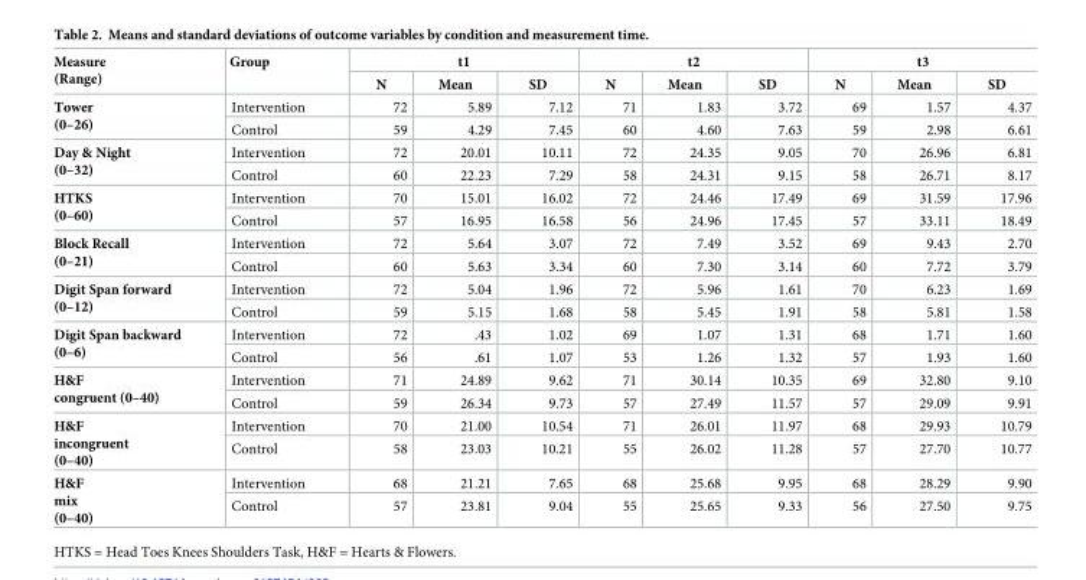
<table><thead><tr><td rowspan="2">Measure (Range)</td><td rowspan="2">Group</td><td colspan="3">t1</td><td colspan="3">t2</td><td colspan="3">t3</td></tr><tr><td>N</td><td>Mean</td><td>SD</td><td>N</td><td>Mean</td><td>SD</td><td>N</td><td>Mean</td><td>SD</td></tr></thead><tbody><tr><td rowspan="2">Tower (0–26)</td><td>Intervention</td><td>72</td><td>5.89</td><td>7.12</td><td>71</td><td>1.83</td><td>3.72</td><td>69</td><td>1.57</td><td>4.37</td></tr><tr><td>Control</td><td>59</td><td>4.29</td><td>7.45</td><td>60</td><td>4.60</td><td>7.63</td><td>59</td><td>2.98</td><td>6.61</td></tr><tr><td rowspan="2">Day &amp; Night (0–32)</td><td>Intervention</td><td>72</td><td>20.01</td><td>10.11</td><td>72</td><td>24.35</td><td>9.05</td><td>70</td><td>26.96</td><td>6.81</td></tr><tr><td>Control</td><td>60</td><td>22.23</td><td>7.29</td><td>58</td><td>24.31</td><td>9.15</td><td>58</td><td>26.71</td><td>8.17</td></tr><tr><td rowspan="2">HTKS (0–60)</td><td>Intervention</td><td>70</td><td>15.01</td><td>16.02</td><td>72</td><td>24.46</td><td>17.49</td><td>69</td><td>31.59</td><td>17.96</td></tr><tr><td>Control</td><td>57</td><td>16.95</td><td>16.58</td><td>56</td><td>24.96</td><td>17.45</td><td>57</td><td>33.11</td><td>18.49</td></tr><tr><td rowspan="2">Block Recall (0–21)</td><td>Intervention</td><td>72</td><td>5.64</td><td>3.07</td><td>72</td><td>7.49</td><td>3.52</td><td>69</td><td>9.43</td><td>2.70</td></tr><tr><td>Control</td><td>60</td><td>5.63</td><td>3.34</td><td>60</td><td>7.30</td><td>3.14</td><td>60</td><td>7.72</td><td>3.79</td></tr><tr><td rowspan="2">Digit Span forward (0–12)</td><td>Intervention</td><td>72</td><td>5.04</td><td>1.96</td><td>72</td><td>5.96</td><td>1.61</td><td>70</td><td>6.23</td><td>1.69</td></tr><tr><td>Control</td><td>59</td><td>5.15</td><td>1.68</td><td>58</td><td>5.45</td><td>1.91</td><td>58</td><td>5.81</td><td>1.58</td></tr><tr><td rowspan="2">Digit Span backward (0–6)</td><td>Intervention</td><td>72</td><td>.43</td><td>1.02</td><td>69</td><td>1.07</td><td>1.31</td><td>68</td><td>1.71</td><td>1.60</td></tr><tr><td>Control</td><td>56</td><td>.61</td><td>1.07</td><td>53</td><td>1.26</td><td>1.32</td><td>57</td><td>1.93</td><td>1.60</td></tr><tr><td rowspan="2">H&amp;F congruent (0–40)</td><td>Intervention</td><td>71</td><td>24.89</td><td>9.62</td><td>71</td><td>30.14</td><td>10.35</td><td>69</td><td>32.80</td><td>9.10</td></tr><tr><td>Control</td><td>59</td><td>26.34</td><td>9.73</td><td>57</td><td>27.49</td><td>11.57</td><td>57</td><td>29.09</td><td>9.91</td></tr><tr><td rowspan="2">H&amp;F incongruent (0–40)</td><td>Intervention</td><td>70</td><td>21.00</td><td>10.54</td><td>71</td><td>26.01</td><td>11.97</td><td>68</td><td>29.93</td><td>10.79</td></tr><tr><td>Control</td><td>58</td><td>23.03</td><td>10.21</td><td>55</td><td>26.02</td><td>11.28</td><td>57</td><td>27.70</td><td>10.77</td></tr><tr><td rowspan="2">H&amp;F mix (0–40)</td><td>Intervention</td><td>68</td><td>21.21</td><td>7.65</td><td>68</td><td>25.68</td><td>9.95</td><td>68</td><td>28.29</td><td>9.90</td></tr><tr><td>Control</td><td>57</td><td>23.81</td><td>9.04</td><td>55</td><td>25.65</td><td>9.33</td><td>56</td><td>27.50</td><td>9.75</td></tr></tbody></table>